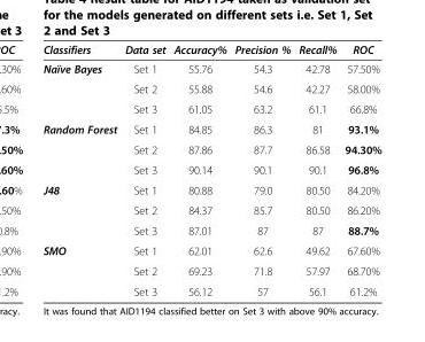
<table><thead><tr><td>Classifiers</td><td>Data set</td><td>Accuracy%</td><td>Precision %</td><td>Recall%</td><td>ROC</td></tr></thead><tbody><tr><td rowspan="3">Naïve Bayes</td><td>Set 1</td><td>55.76</td><td>54.3</td><td>42.78</td><td>57.50%</td></tr><tr><td>Set 2</td><td>55.88</td><td>54.6</td><td>42.27</td><td>58.00%</td></tr><tr><td>Set 3</td><td>61.05</td><td>63.2</td><td>61.1</td><td>66.8%</td></tr><tr><td rowspan="3">Random Forest</td><td>Set 1</td><td>84.85</td><td>86.3</td><td>81</td><td>93.1%</td></tr><tr><td>Set 2</td><td>87.86</td><td>87.7</td><td>86.58</td><td>94.30%</td></tr><tr><td>Set 3</td><td>90.14</td><td>90.1</td><td>90.1</td><td>96.8%</td></tr><tr><td rowspan="3">J48</td><td>Set 1</td><td>80.88</td><td>79.0</td><td>80.50</td><td>84.20%</td></tr><tr><td>Set 2</td><td>84.37</td><td>85.7</td><td>80.50</td><td>86.20%</td></tr><tr><td>Set 3</td><td>87.01</td><td>87</td><td>87</td><td>88.7%</td></tr><tr><td rowspan="3">SMO</td><td>Set 1</td><td>62.01</td><td>62.6</td><td>49.62</td><td>67.60%</td></tr><tr><td>Set 2</td><td>69.23</td><td>71.8</td><td>57.97</td><td>68.70%</td></tr><tr><td>Set 3</td><td>56.12</td><td>57</td><td>56.1</td><td>61.2%</td></tr></tbody></table>